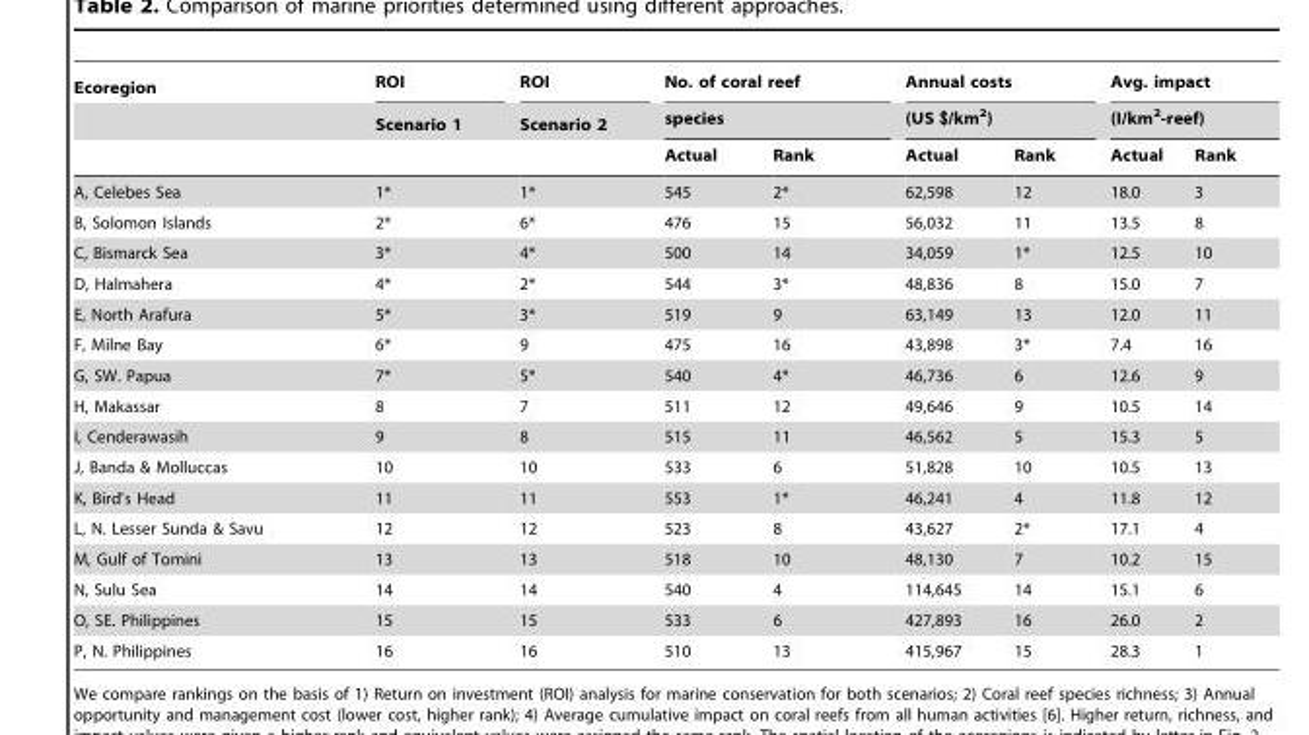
<table><thead><tr><td rowspan="3">Ecoregion</td><td rowspan="3">ROI Scenario 1</td><td rowspan="3">ROI Scenario 2</td><td rowspan="2" colspan="2">No. of coral reef species</td><td rowspan="2" colspan="2">Annual costs (US $/km<sup>2</sup>)</td><td rowspan="2" colspan="2">Avg. impact (I/km<sup>2</sup>-reef)</td></tr><tr></tr><tr><td>Actual</td><td>Rank</td><td>Actual</td><td>Rank</td><td>Actual</td><td>Rank</td></tr></thead><tbody><tr><td>A, Celebes Sea</td><td>1*</td><td>1*</td><td>545</td><td>2*</td><td>62,598</td><td>12</td><td>18.0</td><td>3</td></tr><tr><td>B, Solomon Islands</td><td>2*</td><td>6*</td><td>476</td><td>15</td><td>56,032</td><td>11</td><td>13.5</td><td>8</td></tr><tr><td>C, Bismarck Sea</td><td>3*</td><td>4*</td><td>500</td><td>14</td><td>34,059</td><td>1*</td><td>12.5</td><td>10</td></tr><tr><td>D, Halmahera</td><td>4*</td><td>2*</td><td>544</td><td>3*</td><td>48,836</td><td>8</td><td>15.0</td><td>7</td></tr><tr><td>E, North Arafura</td><td>5*</td><td>3*</td><td>519</td><td>9</td><td>63,149</td><td>13</td><td>12.0</td><td>11</td></tr><tr><td>F, Milne Bay</td><td>6*</td><td>9</td><td>475</td><td>16</td><td>43,898</td><td>3*</td><td>7.4</td><td>16</td></tr><tr><td>G, SW. Papua</td><td>7*</td><td>5*</td><td>540</td><td>4*</td><td>46,736</td><td>6</td><td>12.6</td><td>9</td></tr><tr><td>H, Makassar</td><td>8</td><td>7</td><td>511</td><td>12</td><td>49,646</td><td>9</td><td>10.5</td><td>14</td></tr><tr><td>I, Cenderawasih</td><td>9</td><td>8</td><td>515</td><td>11</td><td>46,562</td><td>5</td><td>15.3</td><td>5</td></tr><tr><td>J, Banda &amp; Molluccas</td><td>10</td><td>10</td><td>533</td><td>6</td><td>51,828</td><td>10</td><td>10.5</td><td>13</td></tr><tr><td>K, Bird’s Head</td><td>11</td><td>11</td><td>553</td><td>1*</td><td>46,241</td><td>4</td><td>11.8</td><td>12</td></tr><tr><td>L, N. Lesser Sunda &amp; Savu</td><td>12</td><td>12</td><td>523</td><td>8</td><td>43,627</td><td>2*</td><td>17.1</td><td>4</td></tr><tr><td>M, Gulf of Tomini</td><td>13</td><td>13</td><td>518</td><td>10</td><td>48,130</td><td>7</td><td>10.2</td><td>15</td></tr><tr><td>N, Sulu Sea</td><td>14</td><td>14</td><td>540</td><td>4</td><td>114,645</td><td>14</td><td>15.1</td><td>6</td></tr><tr><td>O, SE. Philippines</td><td>15</td><td>15</td><td>533</td><td>6</td><td>427,893</td><td>16</td><td>26.0</td><td>2</td></tr><tr><td>P, N. Philippines</td><td>16</td><td>16</td><td>510</td><td>13</td><td>415,967</td><td>15</td><td>28.3</td><td>1</td></tr></tbody></table>